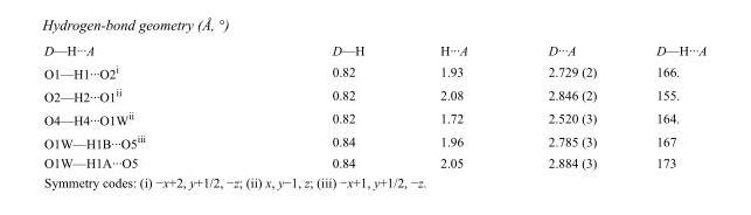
<table><tbody><tr><td>D—H···A</td><td>D—H</td><td>H···A</td><td>D···A</td><td>D—H···A</td></tr><tr><td>O1—H1···O2<sup>i</sup></td><td>0.82</td><td>1.93</td><td>2.729 (2)</td><td>166.</td></tr><tr><td>O2—H2···O1<sup>ii</sup></td><td>0.82</td><td>2.08</td><td>2.846 (2)</td><td>155.</td></tr><tr><td>O4—H4···O1W<sup>ii</sup></td><td>0.82</td><td>1.72</td><td>2.520 (3)</td><td>164.</td></tr><tr><td>O1W—H1B···O5<sup>iii</sup></td><td>0.84</td><td>1.96</td><td>2.785 (3)</td><td>167</td></tr><tr><td>O1W—H1A···O5</td><td>0.84</td><td>2.05</td><td>2.884 (3)</td><td>173</td></tr></tbody></table>